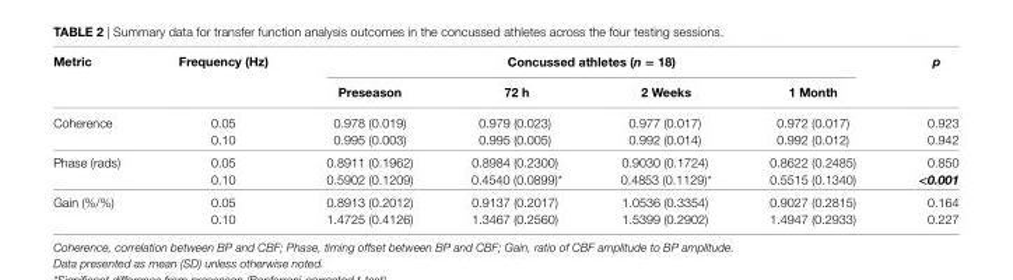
<table><thead><tr><td rowspan="2">Metric</td><td rowspan="2">Frequency (hz)</td><td colspan="4">concussed athletes (n = 18)</td><td rowspan="2">p</td></tr><tr><td>Preseason</td><td>72 h</td><td>2 Weeks</td><td>1 Month</td></tr></thead><tbody><tr><td rowspan="2">Coherence</td><td>0.05</td><td>0.978 (0.019)</td><td>0.979 (0.023)</td><td>0.977 (0.017)</td><td>0.972 (0.017)</td><td>0.923</td></tr><tr><td>0.10</td><td>0.995 (0.003)</td><td>0.995 (0.005)</td><td>0.992 (0.014)</td><td>0.992 (0.012)</td><td>0.942</td></tr><tr><td rowspan="2">Phase (rads)</td><td>0.05</td><td>0.8911 (0.1962)</td><td>0.8984 (0.2300)</td><td>0.9030 (0.1724)</td><td>0.8622 (0.2485)</td><td>0.850</td></tr><tr><td>0.10</td><td>0.5902 (0.1209)</td><td>0.4540 (0.0899)*</td><td>0.4853 (0.1129)*</td><td>0.5515 (0.1340)</td><td>&lt;0.001</td></tr><tr><td rowspan="2">Gain (%/%)</td><td>0.05</td><td>0.8913 (0.2012)</td><td>0.9137 (0.2017)</td><td>1.0536 (0.3354)</td><td>0.9027 (0.2815)</td><td>0.164</td></tr><tr><td>0.10</td><td>1.4725 (0.4126)</td><td>1.3467 (0.2560)</td><td>1.5399 (0.2902)</td><td>1.4947 (0.2933)</td><td>0.227</td></tr></tbody></table>